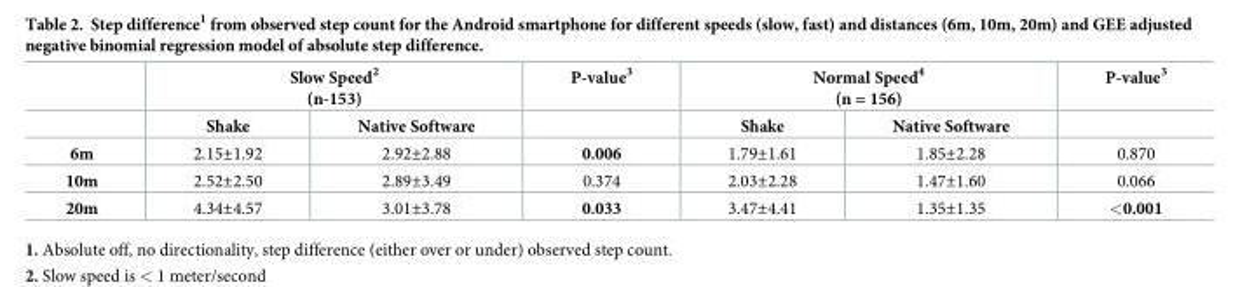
<table><thead><tr><td rowspan="2"></td><td colspan="2">Slow Speed<sup>2</sup> (n-153)</td><td rowspan="2">P-value<sup>3</sup></td><td colspan="2">Normal Speed<sup>4</sup> (n = 156)</td><td rowspan="2">P-value<sup>3</sup></td></tr><tr><td>Shake</td><td>Native Software</td><td>Shake</td><td>Native Software</td></tr></thead><tbody><tr><td>6m</td><td>2.15±1.92</td><td>2.92±2.88</td><td>0.006</td><td>1.79±1.61</td><td>1.85±2.28</td><td>0.870</td></tr><tr><td>10m</td><td>2.52±2.50</td><td>2.89±3.49</td><td>0.374</td><td>2.03±2.28</td><td>1.47±1.60</td><td>0.066</td></tr><tr><td>20m</td><td>4.34±4.57</td><td>3.01±3.78</td><td>0.033</td><td>3.47±4.41</td><td>1.35±1.35</td><td>&lt;0.001</td></tr></tbody></table>